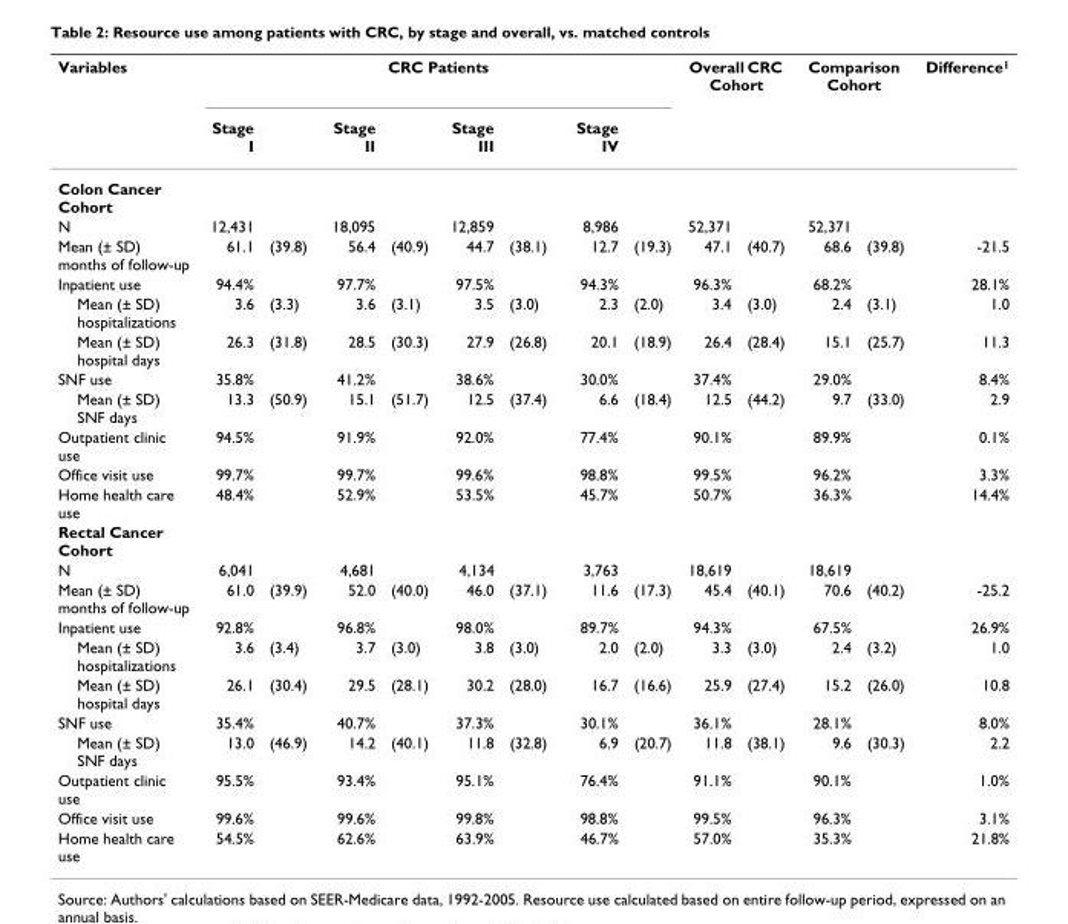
<table><thead><tr><td rowspan="2">Variables</td><td colspan="8">CRC Patients</td><td colspan="2">Overall CRC Cohort</td><td colspan="2">Comparison Cohort</td><td rowspan="2">Difference<sup>1</sup></td></tr><tr><td>Stage I</td><td></td><td>Stage II</td><td></td><td>Stage III</td><td></td><td>Stage IV</td><td></td><td></td><td></td><td></td><td></td></tr></thead><tbody><tr><td colspan="14">Colon Cancer Cohort</td></tr><tr><td>N</td><td>12,431</td><td></td><td>18,095</td><td></td><td>12,859</td><td></td><td>8,986</td><td></td><td>52,371</td><td></td><td>52,371</td><td></td><td></td></tr><tr><td>Mean (± SD) months of follow-up</td><td>61.1</td><td>(39.8)</td><td>56.4</td><td>(40.9)</td><td>44.7</td><td>(38.1)</td><td>12.7</td><td>(19.3)</td><td>47.1</td><td>(40.7)</td><td>68.6</td><td>(39.8)</td><td>-21.5</td></tr><tr><td>Inpatient use</td><td>94.4%</td><td></td><td>97.7%</td><td></td><td>97.5%</td><td></td><td>94.3%</td><td></td><td>96.3%</td><td></td><td>68.2%</td><td></td><td>28.1%</td></tr><tr><td>Mean (± SD) hospitalizations</td><td>3.6</td><td>(3.3)</td><td>3.6</td><td>(3.1)</td><td>3.5</td><td>(3.0)</td><td>2.3</td><td>(2.0)</td><td>3.4</td><td>(3.0)</td><td>2.4</td><td>(3.1)</td><td>1.0</td></tr><tr><td>Mean (± SD) hospital days</td><td>26.3</td><td>(31.8)</td><td>28.5</td><td>(30.3)</td><td>27.9</td><td>(26.8)</td><td>20.1</td><td>(18.9)</td><td>26.4</td><td>(28.4)</td><td>15.1</td><td>(25.7)</td><td>11.3</td></tr><tr><td>SNF use</td><td>35.8%</td><td></td><td>41.2%</td><td></td><td>38.6%</td><td></td><td>30.0%</td><td></td><td>37.4%</td><td></td><td>29.0%</td><td></td><td>8.4%</td></tr><tr><td>Mean (± SD) SNF days</td><td>13.3</td><td>(50.9)</td><td>15.1</td><td>(51.7)</td><td>12.5</td><td>(37.4)</td><td>6.6</td><td>(18.4)</td><td>12.5</td><td>(44.2)</td><td>9.7</td><td>(33.0)</td><td>2.9</td></tr><tr><td>Outpatient clinic use</td><td>94.5%</td><td></td><td>91.9%</td><td></td><td>92.0%</td><td></td><td>77.4%</td><td></td><td>90.1%</td><td></td><td>89.9%</td><td></td><td>0.1%</td></tr><tr><td>Office visit use</td><td>99.7%</td><td></td><td>99.7%</td><td></td><td>99.6%</td><td></td><td>98.8%</td><td></td><td>99.5%</td><td></td><td>96.2%</td><td></td><td>3.3%</td></tr><tr><td>Home health care use</td><td>48.4%</td><td></td><td>52.9%</td><td></td><td>53.5%</td><td></td><td>45.7%</td><td></td><td>50.7%</td><td></td><td>36.3%</td><td></td><td>14.4%</td></tr><tr><td colspan="14">Rectal Cancer Cohort</td></tr><tr><td>N</td><td>6,041</td><td></td><td>4,681</td><td></td><td>4,134</td><td></td><td>3,763</td><td></td><td>18,619</td><td></td><td>18,619</td><td></td><td></td></tr><tr><td>Mean (± SD) months of follow-up</td><td>61.0</td><td>(39.9)</td><td>52.0</td><td>(40.0)</td><td>46.0</td><td>(37.1)</td><td>11.6</td><td>(17.3)</td><td>45.4</td><td>(40.1)</td><td>70.6</td><td>(40.2)</td><td>-25.2</td></tr><tr><td>Inpatient use</td><td>92.8%</td><td></td><td>96.8%</td><td></td><td>98.0%</td><td></td><td>89.7%</td><td></td><td>94.3%</td><td></td><td>67.5%</td><td></td><td>26.9%</td></tr><tr><td>Mean (± SD) hospitalizations</td><td>3.6</td><td>(3.4)</td><td>3.7</td><td>(3.0)</td><td>3.8</td><td>(3.0)</td><td>2.0</td><td>(2.0)</td><td>3.3</td><td>(3.0)</td><td>2.4</td><td>(3.2)</td><td>1.0</td></tr><tr><td>Mean (± SD) hospital days</td><td>26.1</td><td>(30.4)</td><td>29.5</td><td>(28.1)</td><td>30.2</td><td>(28.0)</td><td>16.7</td><td>(16.6)</td><td>25.9</td><td>(27.4)</td><td>15.2</td><td>(26.0)</td><td>10.8</td></tr><tr><td>SNF use</td><td>35.4%</td><td></td><td>40.7%</td><td></td><td>37.3%</td><td></td><td>30.1%</td><td></td><td>36.1%</td><td></td><td>28.1%</td><td></td><td>8.0%</td></tr><tr><td>Mean (± SD) SNF days</td><td>13.0</td><td>(46.9)</td><td>14.2</td><td>(40.1)</td><td>11.8</td><td>(32.8)</td><td>6.9</td><td>(20.7)</td><td>11.8</td><td>(38.1)</td><td>9.6</td><td>(30.3)</td><td>2.2</td></tr><tr><td>Outpatient clinic use</td><td>95.5%</td><td></td><td>93.4%</td><td></td><td>95.1%</td><td></td><td>76.4%</td><td></td><td>91.1%</td><td></td><td>90.1%</td><td></td><td>1.0%</td></tr><tr><td>Office visit use</td><td>99.6%</td><td></td><td>99.6%</td><td></td><td>99.8%</td><td></td><td>98.8%</td><td></td><td>99.5%</td><td></td><td>96.3%</td><td></td><td>3.1%</td></tr><tr><td>Home health care use</td><td>54.5%</td><td></td><td>62.6%</td><td></td><td>63.9%</td><td></td><td>46.7%</td><td></td><td>57.0%</td><td></td><td>35.3%</td><td></td><td>21.8%</td></tr></tbody></table>